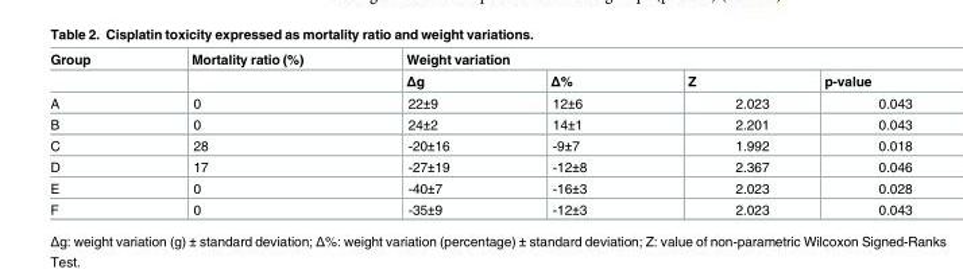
<table><thead><tr><td rowspan="2">Group</td><td rowspan="2">Mortality ratio (%)</td><td colspan="4">Weight variation</td></tr><tr><td>Δg</td><td>Δ%</td><td>Z</td><td>p-value</td></tr></thead><tbody><tr><td>A</td><td>0</td><td>22±9</td><td>12±6</td><td>2.023</td><td>0.043</td></tr><tr><td>B</td><td>0</td><td>24±2</td><td>14±1</td><td>2.201</td><td>0.043</td></tr><tr><td>C</td><td>28</td><td>-20±16</td><td>-9±7</td><td>1.992</td><td>0.018</td></tr><tr><td>D</td><td>17</td><td>-27±19</td><td>-12±8</td><td>2.367</td><td>0.046</td></tr><tr><td>E</td><td>0</td><td>-40±7</td><td>-16±3</td><td>2.023</td><td>0.028</td></tr><tr><td>F</td><td>0</td><td>-35±9</td><td>-12±3</td><td>2.023</td><td>0.043</td></tr></tbody></table>